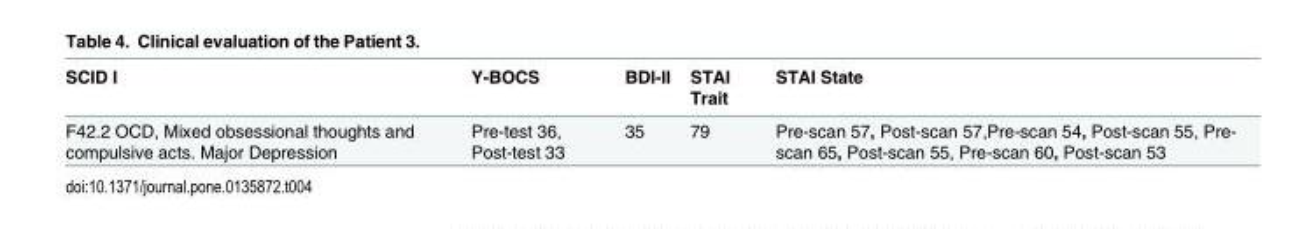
<table><thead><tr><td>SCID I</td><td>Y-BOCS</td><td>BDI-II</td><td>STAI Trait</td><td>STAI State</td></tr></thead><tbody><tr><td>F42.2 OCD, Mixed obsessional thoughts and compulsive acts. Major Depression</td><td>Pre-test 36, Post-test 33</td><td>35</td><td>79</td><td>Pre-scan 57, Post-scan 57,Pre-scan 54, Post-scan 55, Pre- scan 65, Post-scan 55, Pre-scan 60, Post-scan 53</td></tr></tbody></table>